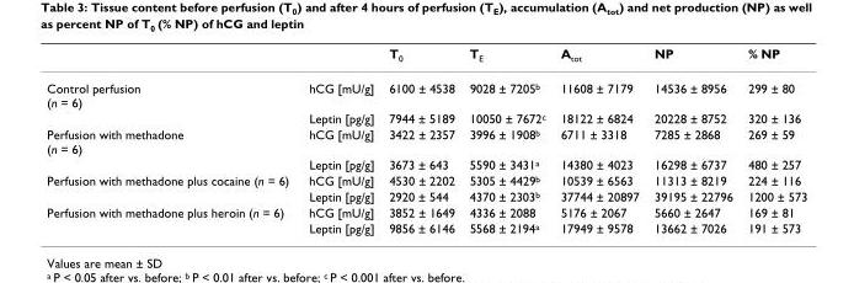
<table><thead><tr><td></td><td></td><td>T<sub>0</sub></td><td>T<sub>E</sub></td><td>A<sub>tot</sub></td><td>NP</td><td>% NP</td></tr></thead><tbody><tr><td rowspan="2">Control perfusion (n = 6)</td><td>hCG [mU/g]</td><td>6100 ± 4538</td><td>9028 ± 7205<sup>b</sup></td><td>11608 ± 7179</td><td>14536 ± 8956</td><td>299 ± 80</td></tr><tr><td>Leptin [pg/g]</td><td>7944 ± 5189</td><td>10050 ± 7672<sup>c</sup></td><td>18122 ± 6824</td><td>20228 ± 8752</td><td>320 ± 136</td></tr><tr><td rowspan="2">Perfusion with methadone (n = 6)</td><td>hCG [mU/g]</td><td>3422 ± 2357</td><td>3996 ± 1908<sup>b</sup></td><td>6711 ± 3318</td><td>7285 ± 2868</td><td>269 ± 59</td></tr><tr><td>Leptin [pg/g]</td><td>3673 ± 643</td><td>5590 ± 3431<sup>a</sup></td><td>14380 ± 4023</td><td>16298 ± 6737</td><td>480 ± 257</td></tr><tr><td rowspan="2">Perfusion with methadone plus cocaine (n = 6)</td><td>hCG [mU/g]</td><td>4530 ± 2202</td><td>5305 ± 4429<sup>b</sup></td><td>10539 ± 6563</td><td>11313 ± 8219</td><td>224 ± 116</td></tr><tr><td>Leptin [pg/g]</td><td>2920 ± 544</td><td>4370 ± 2303<sup>b</sup></td><td>37744 ± 20897</td><td>39195 ± 22796</td><td>1200 ± 573</td></tr><tr><td rowspan="2">Perfusion with methadone plus heroin (n = 6)</td><td>hCG [mU/g]</td><td>3852 ± 1649</td><td>4336 ± 2088</td><td>5176 ± 2067</td><td>5660 ± 2647</td><td>169 ± 81</td></tr><tr><td>Leptin [pg/g]</td><td>9856 ± 6146</td><td>5568 ± 2194<sup>a</sup></td><td>17949 ± 9578</td><td>13662 ± 7026</td><td>191 ± 573</td></tr></tbody></table>